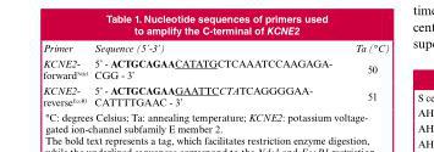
<table><thead><tr><td>Primer</td><td>Sequence (5’-3’)</td><td>Ta (°C)</td></tr></thead><tbody><tr><td>KCNE2- forward<sup>Nde1</sup></td><td>5’ - ACTGCAGAACATATGCTCAAATCCAAGAGA- CGG - 3’</td><td>50</td></tr><tr><td>KCNE2- reverse<sup>EcoR1</sup></td><td>5’ - ACTGCAGAAGAATTCCTATCAGGGGAA- CATTTTGAAC - 3’</td><td>51</td></tr></tbody></table>